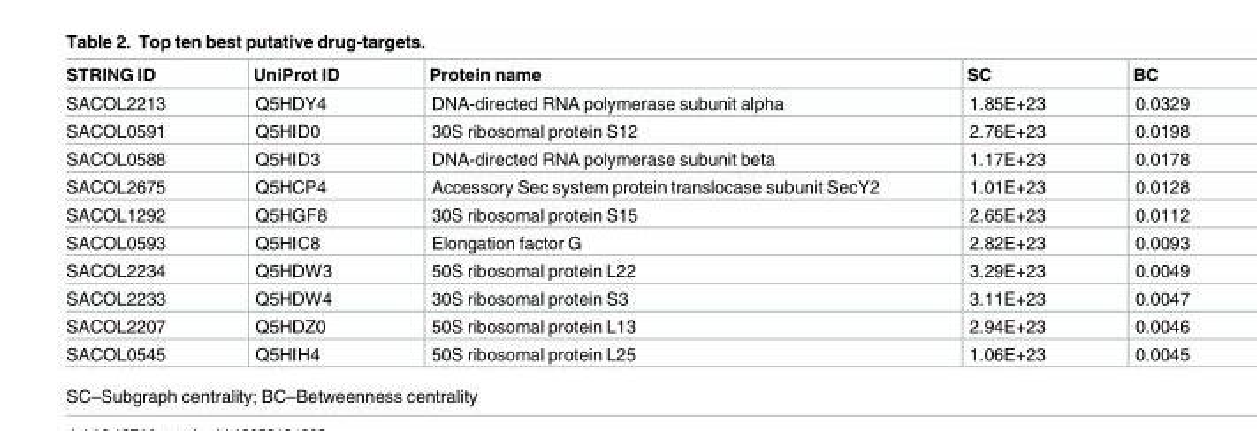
<table><thead><tr><td>STRING ID</td><td>UniProt ID</td><td>Protein name</td><td>SC</td><td>BC</td></tr></thead><tbody><tr><td>SACOL2213</td><td>Q5HDY4</td><td>DNA-directed RNA polymerase subunit alpha</td><td>1.85E+23</td><td>0.0329</td></tr><tr><td>SACOL0591</td><td>Q5HID0</td><td>30S ribosomal protein S12</td><td>2.76E+23</td><td>0.0198</td></tr><tr><td>SACOL0588</td><td>Q5HID3</td><td>DNA-directed RNA polymerase subunit beta</td><td>1.17E+23</td><td>0.0178</td></tr><tr><td>SACOL2675</td><td>Q5HCP4</td><td>Accessory Sec system protein translocase subunit SecY2</td><td>1.01E+23</td><td>0.0128</td></tr><tr><td>SACOL1292</td><td>Q5HGF8</td><td>30S ribosomal protein S15</td><td>2.65E+23</td><td>0.0112</td></tr><tr><td>SACOL0593</td><td>Q5HIC8</td><td>Elongation factor G</td><td>2.82E+23</td><td>0.0093</td></tr><tr><td>SACOL2234</td><td>Q5HDW3</td><td>50S ribosomal protein L22</td><td>3.29E+23</td><td>0.0049</td></tr><tr><td>SACOL2233</td><td>Q5HDW4</td><td>30S ribosomal protein S3</td><td>3.11E+23</td><td>0.0047</td></tr><tr><td>SACOL2207</td><td>Q5HDZ0</td><td>50S ribosomal protein L13</td><td>2.94E+23</td><td>0.0046</td></tr><tr><td>SACOL0545</td><td>Q5HIH4</td><td>50S ribosomal protein L25</td><td>1.06E+23</td><td>0.0045</td></tr></tbody></table>